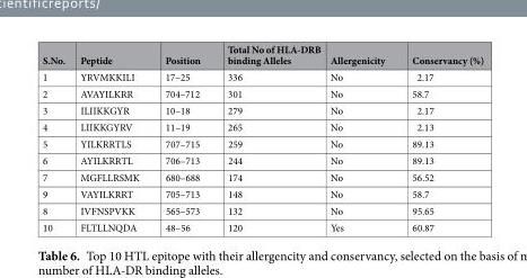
<table><thead><tr><td>S.No.</td><td>Peptide</td><td>Position</td><td>Total No of HLA-DRB binding Alleles</td><td>Allergenicity</td><td>Conservancy (%)</td></tr></thead><tbody><tr><td>1</td><td>YRVMKKILI</td><td>17–25</td><td>336</td><td>No</td><td>2.17</td></tr><tr><td>2</td><td>AVAYILKRR</td><td>704–712</td><td>301</td><td>No</td><td>58.7</td></tr><tr><td>3</td><td>ILIIKKGYR</td><td>10–18</td><td>279</td><td>No</td><td>2.17</td></tr><tr><td>4</td><td>LIIKKGYRV</td><td>11–19</td><td>265</td><td>No</td><td>2.13</td></tr><tr><td>5</td><td>YILKRRTLS</td><td>707–715</td><td>259</td><td>No</td><td>89.13</td></tr><tr><td>6</td><td>AYILKRRTL</td><td>706–713</td><td>244</td><td>No</td><td>89.13</td></tr><tr><td>7</td><td>MGFLLRSMK</td><td>680–688</td><td>174</td><td>No</td><td>56.52</td></tr><tr><td>9</td><td>VAYILKRRT</td><td>705–713</td><td>148</td><td>No</td><td>58.7</td></tr><tr><td>8</td><td>IVFNSPVKK</td><td>565–573</td><td>132</td><td>No</td><td>95.65</td></tr><tr><td>10</td><td>FLTLLNQDA</td><td>48–56</td><td>120</td><td>Yes</td><td>60.87</td></tr></tbody></table>